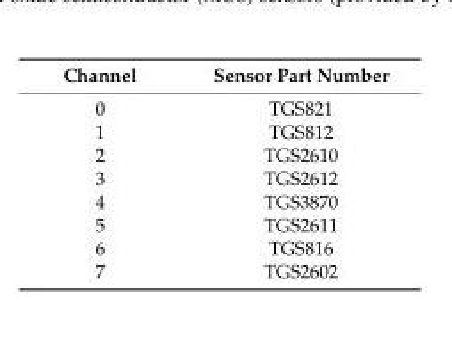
<table><thead><tr><td>Channel</td><td>Sensor Part Number</td></tr></thead><tbody><tr><td>0</td><td>TGS821</td></tr><tr><td>1</td><td>TGS812</td></tr><tr><td>2</td><td>TGS2610</td></tr><tr><td>3</td><td>TGS2612</td></tr><tr><td>4</td><td>TGS3870</td></tr><tr><td>5</td><td>TGS2611</td></tr><tr><td>6</td><td>TGS816</td></tr><tr><td>7</td><td>TGS2602</td></tr></tbody></table>